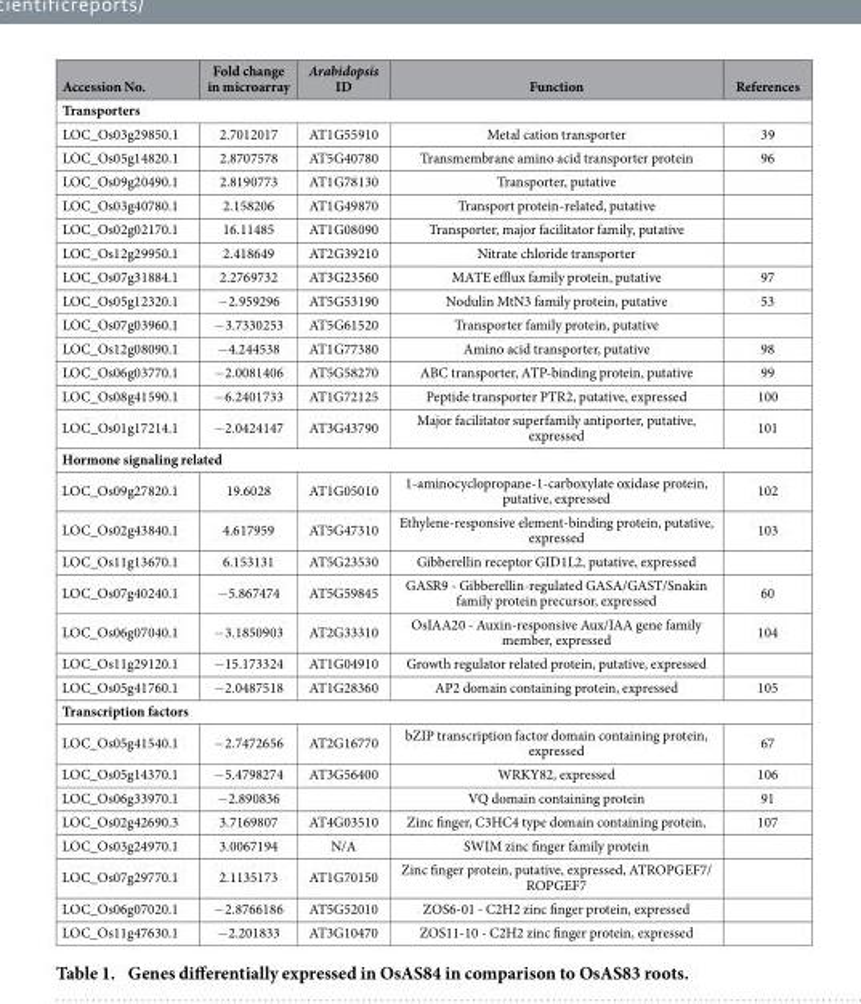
<table><thead><tr><td>Accession No.</td><td>Fold change in microarray</td><td>Arabidopsis ID</td><td>Function</td><td>References</td></tr></thead><tbody><tr><td colspan="5">Transporters</td></tr><tr><td>LOC_Os03g29850.1</td><td>2.7012017</td><td>AT1G55910</td><td>Metal cation transporter</td><td>39</td></tr><tr><td>LOC_Os05g14820.1</td><td>2.8707578</td><td>AT5G40780</td><td>Transmembrane amino acid transporter protein</td><td>96</td></tr><tr><td>LOC_Os09g20490.1</td><td>2.8190773</td><td>AT1G78130</td><td>Transporter, putative</td><td></td></tr><tr><td>LOC_Os03g40780.1</td><td>2.158206</td><td>AT1G49870</td><td>Transport protein-related, putative</td><td></td></tr><tr><td>LOC_Os02g02170.1</td><td>16.11485</td><td>AT1G08090</td><td>Transporter, major facilitator family, putative</td><td></td></tr><tr><td>LOC_Os12g29950.1</td><td>2.418649</td><td>AT2G39210</td><td>Nitrate chloride transporter</td><td></td></tr><tr><td>LOC_Os07g31884.1</td><td>2.2769732</td><td>AT3G23560</td><td>MATE efflux family protein, putative</td><td>97</td></tr><tr><td>LOC_Os05g12320.1</td><td>− 2.959296</td><td>AT5G53190</td><td>Nodulin MtN3 family protein, putative</td><td>53</td></tr><tr><td>LOC_Os07g03960.1</td><td>− 3.7330253</td><td>AT5G61520</td><td>Transporter family protein, putative</td><td></td></tr><tr><td>LOC_Os12g08090.1</td><td>− 4.244538</td><td>AT1G77380</td><td>Amino acid transporter, putative</td><td>98</td></tr><tr><td>LOC_Os06g03770.1</td><td>− 2.0081406</td><td>AT5G58270</td><td>ABC transporter, ATP-binding protein, putative</td><td>99</td></tr><tr><td>LOC_Os08g41590.1</td><td>− 6.2401733</td><td>AT1G72125</td><td>Peptide transporter PTR2, putative, expressed</td><td>100</td></tr><tr><td>LOC_Os01g17214.1</td><td>− 2.0424147</td><td>AT3G43790</td><td>Major facilitator superfamily antiporter, putative, expressed</td><td>101</td></tr><tr><td colspan="5">Hormone signaling related</td></tr><tr><td>LOC_Os09g27820.1</td><td>19.6028</td><td>AT1G05010</td><td>1-aminocyclopropane-1-carboxylate oxidase protein, putative, expressed</td><td>102</td></tr><tr><td>LOC_Os02g43840.1</td><td>4.617959</td><td>AT5G47310</td><td>Ethylene-responsive element-binding protein, putative, expressed</td><td>103</td></tr><tr><td>LOC_Os11g13670.1</td><td>6.153131</td><td>AT5G23530</td><td>Gibberellin receptor GID1L2, putative, expressed</td><td></td></tr><tr><td>LOC_Os07g40240.1</td><td>− 5.867474</td><td>AT5G59845</td><td>GASR9 - Gibberellin-regulated GASA/GAST/Snakin family protein precursor, expressed</td><td>60</td></tr><tr><td>LOC_Os06g07040.1</td><td>− 3.1850903</td><td>AT2G33310</td><td>OsIAA20 - Auxin-responsive Aux/IAA gene family member, expressed</td><td>104</td></tr><tr><td>LOC_Os11g29120.1</td><td>− 15.173324</td><td>AT1G04910</td><td>Growth regulator related protein, putative, expressed</td><td></td></tr><tr><td>LOC_Os05g41760.1</td><td>− 2.0487518</td><td>AT1G28360</td><td>AP2 domain containing protein, expressed</td><td>105</td></tr><tr><td colspan="5">Transcription factors</td></tr><tr><td>LOC_Os05g41540.1</td><td>− 2.7472656</td><td>AT2G16770</td><td>bZIP transcription factor domain containing protein, expressed</td><td>67</td></tr><tr><td>LOC_Os05g14370.1</td><td>− 5.4798274</td><td>AT3G56400</td><td>WRKY82, expressed</td><td>106</td></tr><tr><td>LOC_Os06g33970.1</td><td>− 2.890836</td><td></td><td>VQ domain containing protein</td><td>91</td></tr><tr><td>LOC_Os02g42690.3</td><td>3.7169807</td><td>AT4G03510</td><td>Zinc finger, C3HC4 type domain containing protein,</td><td>107</td></tr><tr><td>LOC_Os03g24970.1</td><td>3.0067194</td><td>N/A</td><td>SWIM zinc finger family protein</td><td></td></tr><tr><td>LOC_Os07g29770.1</td><td>2.1135173</td><td>AT1G70150</td><td>Zinc finger protein, putative, expressed, ATROPGEF7/ ROPGEF7</td><td></td></tr><tr><td>LOC_Os06g07020.1</td><td>− 2.8766186</td><td>AT5G52010</td><td>ZOS6-01 - C2H2 zinc finger protein, expressed</td><td></td></tr><tr><td>LOC_Os11g47630.1</td><td>− 2.201833</td><td>AT3G10470</td><td>ZOS11-10 - C2H2 zinc finger protein, expressed</td><td></td></tr></tbody></table>